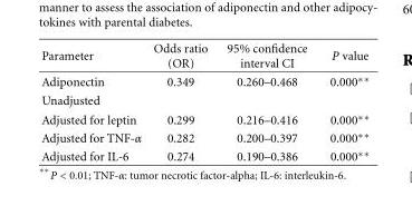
<table><thead><tr><td>Parameter</td><td>Odds ratio (OR)</td><td>95% confidence interval CI</td><td>P value</td></tr></thead><tbody><tr><td>Adiponectin</td><td>0.349</td><td>0.260–0.468</td><td>0.000∗∗</td></tr><tr><td colspan="4">Unadjusted</td></tr><tr><td>Adjusted for leptin</td><td>0.299</td><td>0.216–0.416</td><td>0.000∗∗</td></tr><tr><td>Adjusted for TNF-α</td><td>0.282</td><td>0.200–0.397</td><td>0.000∗∗</td></tr><tr><td>Adjusted for IL-6</td><td>0.274</td><td>0.190–0.386</td><td>0.000∗∗</td></tr></tbody></table>